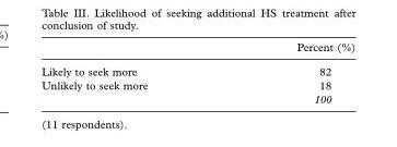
<table><thead><tr><td></td><td>Percent (%)</td></tr></thead><tbody><tr><td>Likely to seek more</td><td>82</td></tr><tr><td rowspan="2">Unlikely to seek more</td><td>18</td></tr><tr><td>100</td></tr></tbody></table>